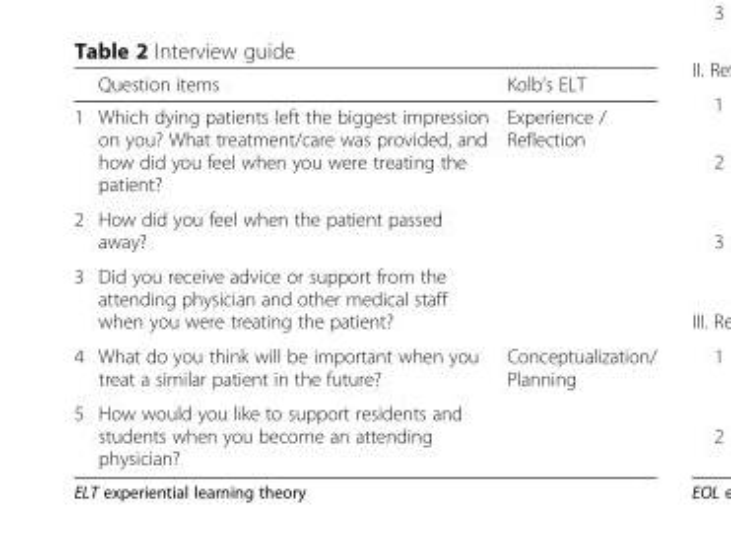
<table><thead><tr><td></td><td>Question items</td><td>Kolb’s ELT</td></tr></thead><tbody><tr><td>1</td><td>Which dying patients left the biggest impression on you? What treatment/care was provided, and how did you feel when you were treating the patient?</td><td rowspan="3">Experience / Reflection</td></tr><tr><td>2</td><td>How did you feel when the patient passed away?</td></tr><tr><td>3</td><td>Did you receive advice or support from the attending physician and other medical staff when you were treating the patient?</td></tr><tr><td>4</td><td>What do you think will be important when you treat a similar patient in the future?</td><td rowspan="2">Conceptualization/ Planning</td></tr><tr><td>5</td><td>How would you like to support residents and students when you become an attending physician?</td></tr></tbody></table>